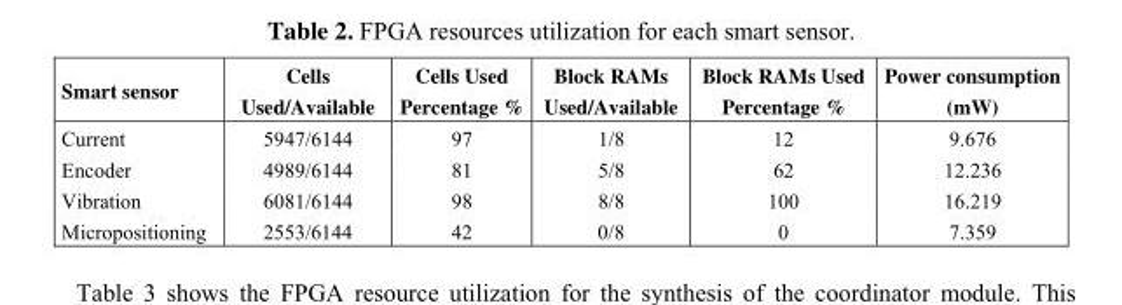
<table><thead><tr><td>Smart sensor</td><td>Cells Used/Available</td><td>Cells Used Percentage %</td><td>Block RAMs Used/Available</td><td>Block RAMs Used Percentage %</td><td>Power consumption (mW)</td></tr></thead><tbody><tr><td>Current</td><td>5947/6144</td><td>97</td><td>1/8</td><td>12</td><td>9.676</td></tr><tr><td>Encoder</td><td>4989/6144</td><td>81</td><td>5/8</td><td>62</td><td>12.236</td></tr><tr><td>Vibration</td><td>6081/6144</td><td>98</td><td>8/8</td><td>100</td><td>16.219</td></tr><tr><td>Micropositioning</td><td>2553/6144</td><td>42</td><td>0/8</td><td>0</td><td>7.359</td></tr></tbody></table>